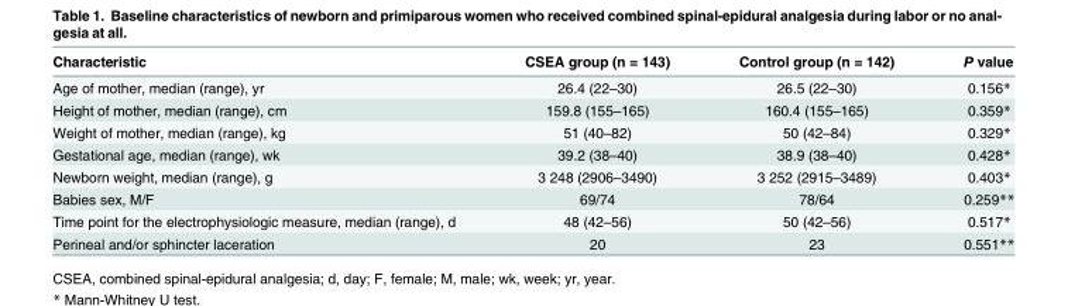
<table><thead><tr><td>Characteristic</td><td>CSEA group (n = 143)</td><td>Control group (n = 142)</td><td>P value</td></tr></thead><tbody><tr><td>Age of mother, median (range), yr</td><td>26.4 (22–30)</td><td>26.5 (22–30)</td><td>0.156*</td></tr><tr><td>Height of mother, median (range), cm</td><td>159.8 (155–165)</td><td>160.4 (155–165)</td><td>0.359*</td></tr><tr><td>Weight of mother, median (range), kg</td><td>51 (40–82)</td><td>50 (42–84)</td><td>0.329*</td></tr><tr><td>Gestational age, median (range), wk</td><td>39.2 (38–40)</td><td>38.9 (38–40)</td><td>0.428*</td></tr><tr><td>Newborn weight, median (range), g</td><td>3 248 (2906–3490)</td><td>3 252 (2915–3489)</td><td>0.403*</td></tr><tr><td>Babies sex, M/F</td><td>69/74</td><td>78/64</td><td>0.259**</td></tr><tr><td>Time point for the electrophysiologic measure, median (range), d</td><td>48 (42–56)</td><td>50 (42–56)</td><td>0.517*</td></tr><tr><td>Perineal and/or sphincter laceration</td><td>20</td><td>23</td><td>0.551**</td></tr></tbody></table>